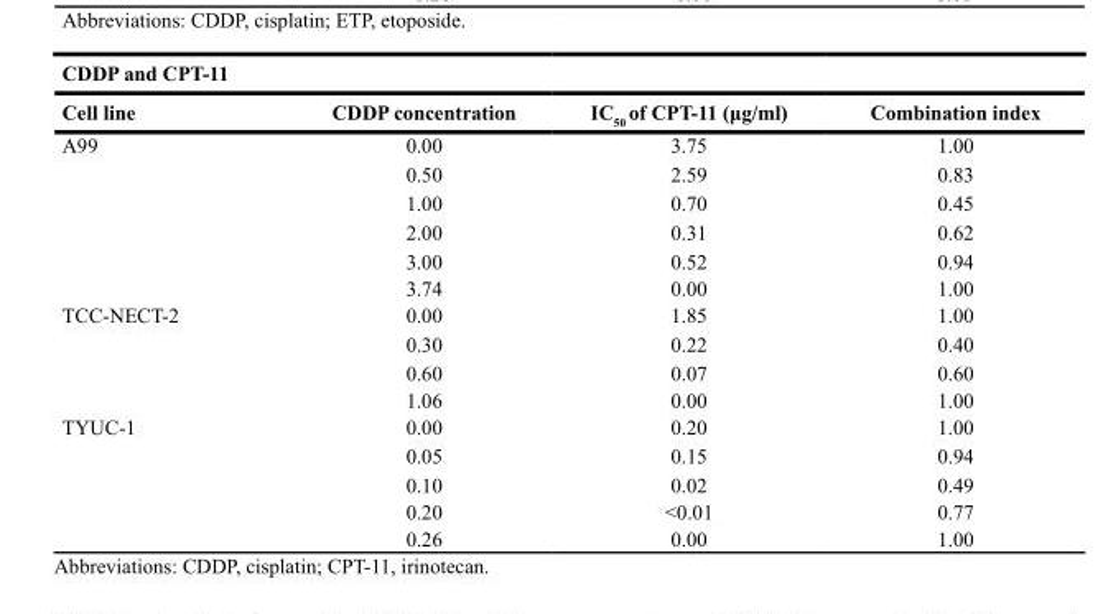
<table><thead><tr><td colspan="4">CDDP and CPT-11</td></tr><tr><td>Cell line</td><td>CDDP concentration</td><td>IC<sub>50</sub> of CPT-11 (μg/ml)</td><td>Combination index</td></tr></thead><tbody><tr><td rowspan="6">A99</td><td>0.00</td><td>3.75</td><td>1.00</td></tr><tr><td>0.50</td><td>2.59</td><td>0.83</td></tr><tr><td>1.00</td><td>0.70</td><td>0.45</td></tr><tr><td>2.00</td><td>0.31</td><td>0.62</td></tr><tr><td>3.00</td><td>0.52</td><td>0.94</td></tr><tr><td>3.74</td><td>0.00</td><td>1.00</td></tr><tr><td rowspan="4">TCC-NECT-2</td><td>0.00</td><td>1.85</td><td>1.00</td></tr><tr><td>0.30</td><td>0.22</td><td>0.40</td></tr><tr><td>0.60</td><td>0.07</td><td>0.60</td></tr><tr><td>1.06</td><td>0.00</td><td>1.00</td></tr><tr><td rowspan="5">TYUC-1</td><td>0.00</td><td>0.20</td><td>1.00</td></tr><tr><td>0.05</td><td>0.15</td><td>0.94</td></tr><tr><td>0.10</td><td>0.02</td><td>0.49</td></tr><tr><td>0.20</td><td>&lt;0.01</td><td>0.77</td></tr><tr><td>0.26</td><td>0.00</td><td>1.00</td></tr></tbody></table>